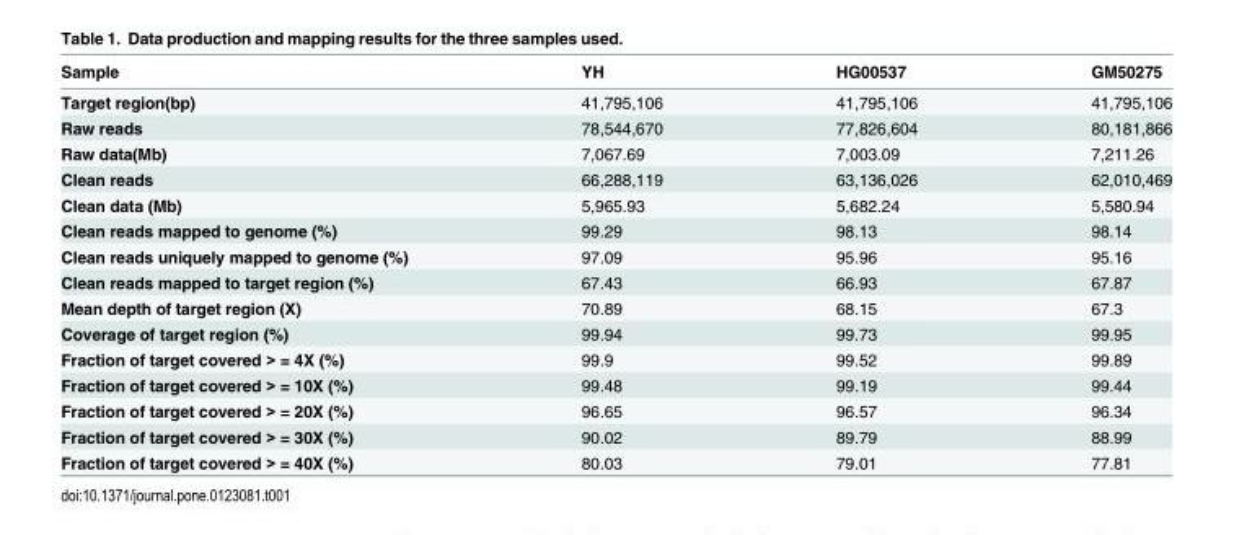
<table><thead><tr><td>Sample</td><td>YH</td><td>HG00537</td><td>GM50275</td></tr></thead><tbody><tr><td>Target region(bp)</td><td>41,795,106</td><td>41,795,106</td><td>41,795,106</td></tr><tr><td>Raw reads</td><td>78,544,670</td><td>77,826,604</td><td>80,181,866</td></tr><tr><td>Raw data(Mb)</td><td>7,067.69</td><td>7,003.09</td><td>7,211.26</td></tr><tr><td>Clean reads</td><td>66,288,119</td><td>63,136,026</td><td>62,010,469</td></tr><tr><td>Clean data (Mb)</td><td>5,965.93</td><td>5,682.24</td><td>5,580.94</td></tr><tr><td>Clean reads mapped to genome (%)</td><td>99.29</td><td>98.13</td><td>98.14</td></tr><tr><td>Clean reads uniquely mapped to genome (%)</td><td>97.09</td><td>95.96</td><td>95.16</td></tr><tr><td>Clean reads mapped to target region (%)</td><td>67.43</td><td>66.93</td><td>67.87</td></tr><tr><td>Mean depth of target region (X)</td><td>70.89</td><td>68.15</td><td>67.3</td></tr><tr><td>Coverage of target region (%)</td><td>99.94</td><td>99.73</td><td>99.95</td></tr><tr><td>Fraction of target covered &gt; = 4X (%)</td><td>99.9</td><td>99.52</td><td>99.89</td></tr><tr><td>Fraction of target covered &gt; = 10X (%)</td><td>99.48</td><td>99.19</td><td>99.44</td></tr><tr><td>Fraction of target covered &gt; = 20X (%)</td><td>96.65</td><td>96.57</td><td>96.34</td></tr><tr><td>Fraction of target covered &gt; = 30X (%)</td><td>90.02</td><td>89.79</td><td>88.99</td></tr><tr><td>Fraction of target covered &gt; = 40X (%)</td><td>80.03</td><td>79.01</td><td>77.81</td></tr></tbody></table>